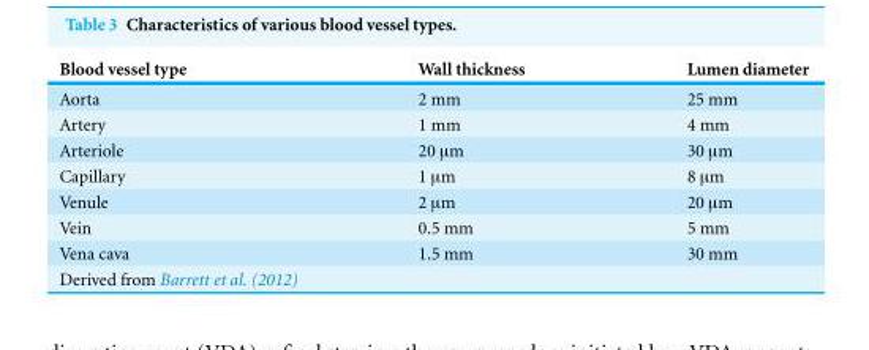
<table><thead><tr><td>Blood vessel type</td><td>Wall thickness</td><td>Lumen diameter</td></tr></thead><tbody><tr><td>Aorta</td><td>2 mm</td><td>25 mm</td></tr><tr><td>Artery</td><td>1 mm</td><td>4 mm</td></tr><tr><td>Arteriole</td><td>20 µm</td><td>30 µm</td></tr><tr><td>Capillary</td><td>1 µm</td><td>8 µm</td></tr><tr><td>Venule</td><td>2 µm</td><td>20 µm</td></tr><tr><td>Vein</td><td>0.5 mm</td><td>5 mm</td></tr><tr><td>Vena cava</td><td>1.5 mm</td><td>30 mm</td></tr><tr><td colspan="3">Derived from Barrett et al. (2012)</td></tr></tbody></table>